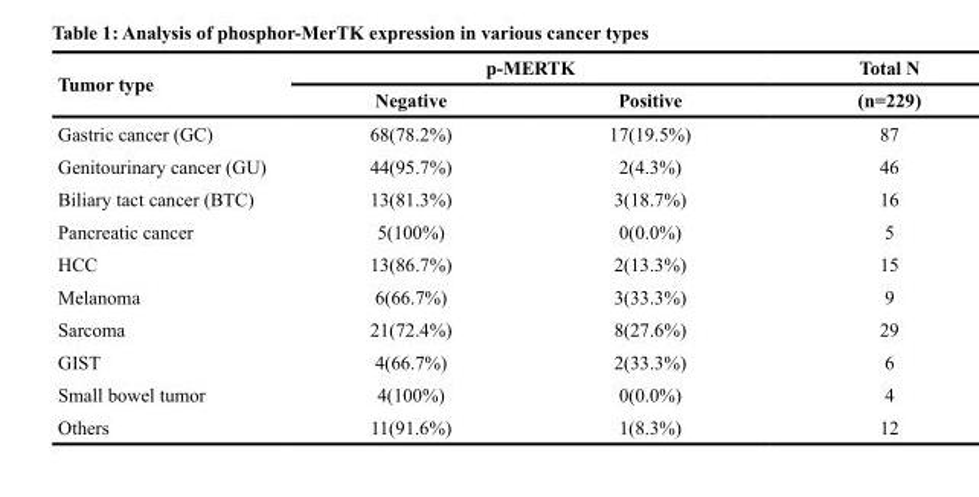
<table><thead><tr><td rowspan="2">Tumor type</td><td colspan="2">p-MERTK</td><td rowspan="2">Total N (n=229)</td></tr><tr><td>Negative</td><td>Positive</td></tr></thead><tbody><tr><td>Gastric cancer (GC)</td><td>68(78.2%)</td><td>17(19.5%)</td><td>87</td></tr><tr><td>Genitourinary cancer (GU)</td><td>44(95.7%)</td><td>2(4.3%)</td><td>46</td></tr><tr><td>Biliary tact cancer (BTC)</td><td>13(81.3%)</td><td>3(18.7%)</td><td>16</td></tr><tr><td>Pancreatic cancer</td><td>5(100%)</td><td>0(0.0%)</td><td>5</td></tr><tr><td>HCC</td><td>13(86.7%)</td><td>2(13.3%)</td><td>15</td></tr><tr><td>Melanoma</td><td>6(66.7%)</td><td>3(33.3%)</td><td>9</td></tr><tr><td>Sarcoma</td><td>21(72.4%)</td><td>8(27.6%)</td><td>29</td></tr><tr><td>GIST</td><td>4(66.7%)</td><td>2(33.3%)</td><td>6</td></tr><tr><td>Small bowel tumor</td><td>4(100%)</td><td>0(0.0%)</td><td>4</td></tr><tr><td>Others</td><td>11(91.6%)</td><td>1(8.3%)</td><td>12</td></tr></tbody></table>